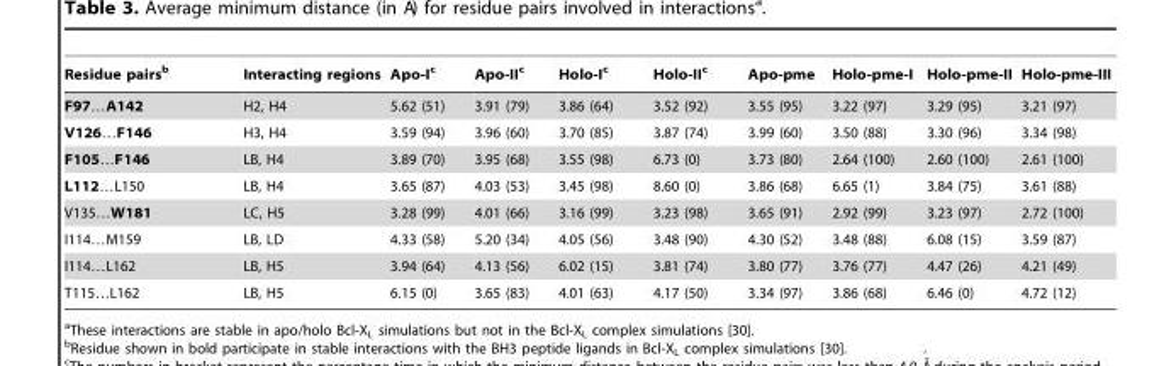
<table><thead><tr><td>Residue pairs<sup>b</sup></td><td>Interacting regions</td><td>Apo-I<sup>c</sup></td><td>Apo-II<sup>c</sup></td><td>Holo-I<sup>c</sup></td><td>Holo-II<sup>c</sup></td><td>Apo-pme</td><td>Holo-pme-I</td><td>Holo-pme-II</td><td>Holo-pme-III</td></tr></thead><tbody><tr><td>F97…A142</td><td>H2, H4</td><td>5.62 (51)</td><td>3.91 (79)</td><td>3.86 (64)</td><td>3.52 (92)</td><td>3.55 (95)</td><td>3.22 (97)</td><td>3.29 (95)</td><td>3.21 (97)</td></tr><tr><td>V126…F146</td><td>H3, H4</td><td>3.59 (94)</td><td>3.96 (60)</td><td>3.70 (85)</td><td>3.87 (74)</td><td>3.99 (60)</td><td>3.50 (88)</td><td>3.30 (96)</td><td>3.34 (98)</td></tr><tr><td>F105…F146</td><td>LB, H4</td><td>3.89 (70)</td><td>3.95 (68)</td><td>3.55 (98)</td><td>6.73 (0)</td><td>3.73 (80)</td><td>2.64 (100)</td><td>2.60 (100)</td><td>2.61 (100)</td></tr><tr><td>L112…L150</td><td>LB, H4</td><td>3.65 (87)</td><td>4.03 (53)</td><td>3.45 (98)</td><td>8.60 (0)</td><td>3.86 (68)</td><td>6.65 (1)</td><td>3.84 (75)</td><td>3.61 (88)</td></tr><tr><td>V135…W181</td><td>LC, H5</td><td>3.28 (99)</td><td>4.01 (66)</td><td>3.16 (99)</td><td>3.23 (98)</td><td>3.65 (91)</td><td>2.92 (99)</td><td>3.23 (97)</td><td>2.72 (100)</td></tr><tr><td>I114…M159</td><td>LB, LD</td><td>4.33 (58)</td><td>5.20 (34)</td><td>4.05 (56)</td><td>3.48 (90)</td><td>4.30 (52)</td><td>3.48 (88)</td><td>6.08 (15)</td><td>3.59 (87)</td></tr><tr><td>I114…L162</td><td>LB, H5</td><td>3.94 (64)</td><td>4.13 (56)</td><td>6.02 (15)</td><td>3.81 (74)</td><td>3.80 (77)</td><td>3.76 (77)</td><td>4.47 (26)</td><td>4.21 (49)</td></tr><tr><td>T115…L162</td><td>LB, H5</td><td>6.15 (0)</td><td>3.65 (83)</td><td>4.01 (63)</td><td>4.17 (50)</td><td>3.34 (97)</td><td>3.86 (68)</td><td>6.46 (0)</td><td>4.72 (12)</td></tr></tbody></table>